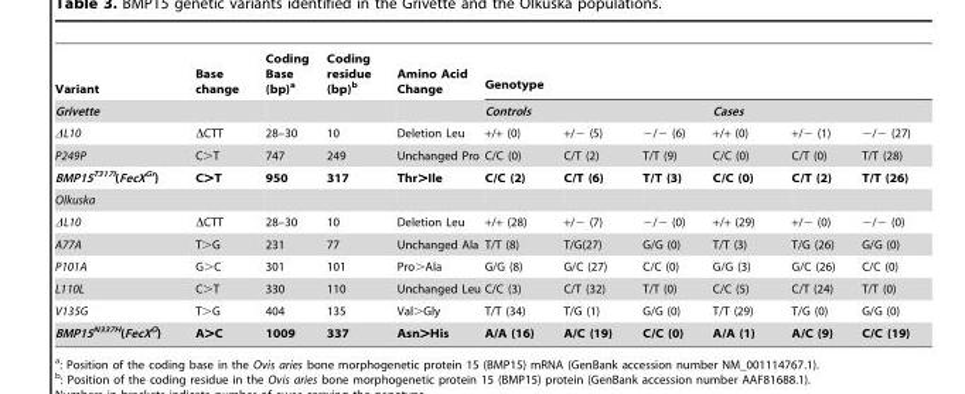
<table><thead><tr><td rowspan="3">Variant Grivette ΔL10</td><td rowspan="3">Base change ΔCTT</td><td rowspan="3">Coding Base (bp)<sup>a</sup> 28–30</td><td rowspan="3">Coding residue (bp)<sup>b</sup> 10</td><td rowspan="3">Amino Acid Change Deletion Leu</td><td colspan="6">Genotype</td></tr><tr><td colspan="3">Controls</td><td colspan="3">Cases</td></tr><tr><td>+/+ (0)</td><td>+/− (5)</td><td>−/− (6)</td><td>+/+ (0)</td><td>+/− (1)</td><td>−/− (27)</td></tr></thead><tbody><tr><td>P249P</td><td>C&gt;T</td><td>747</td><td>249</td><td>Unchanged Pro</td><td>C/C (0)</td><td>C/T (2)</td><td>T/T (9)</td><td>C/C (0)</td><td>C/T (0)</td><td>T/T (28)</td></tr><tr><td>BMP15<sup>T317I</sup>(FecX<sup>Gr</sup>)</td><td>C&gt;T</td><td>950</td><td>317</td><td>Thr&gt;Ile</td><td>C/C (2)</td><td>C/T (6)</td><td>T/T (3)</td><td>C/C (0)</td><td>C/T (2)</td><td>T/T (26)</td></tr><tr><td colspan="11">Olkuska</td></tr><tr><td>ΔL10</td><td>ΔCTT</td><td>28–30</td><td>10</td><td>Deletion Leu</td><td>+/+ (28)</td><td>+/− (7)</td><td>−/− (0)</td><td>+/+ (29)</td><td>+/− (0)</td><td>−/− (0)</td></tr><tr><td>A77A</td><td>T&gt;G</td><td>231</td><td>77</td><td>Unchanged Ala</td><td>T/T (8)</td><td>T/G(27)</td><td>G/G (0)</td><td>T/T (3)</td><td>T/G (26)</td><td>G/G (0)</td></tr><tr><td>P101A</td><td>G&gt;C</td><td>301</td><td>101</td><td>Pro&gt;Ala</td><td>G/G (8)</td><td>G/C (27)</td><td>C/C (0)</td><td>G/G (3)</td><td>G/C (26)</td><td>C/C (0)</td></tr><tr><td>L110L</td><td>C&gt;T</td><td>330</td><td>110</td><td>Unchanged Leu</td><td>C/C (3)</td><td>C/T (32)</td><td>T/T (0)</td><td>C/C (5)</td><td>C/T (24)</td><td>T/T (0)</td></tr><tr><td>V135G</td><td>T&gt;G</td><td>404</td><td>135</td><td>Val&gt;Gly</td><td>T/T (34)</td><td>T/G (1)</td><td>G/G (0)</td><td>T/T (29)</td><td>T/G (0)</td><td>G/G (0)</td></tr><tr><td>BMP15<sup>N337H</sup>(FecX<sup>O</sup>)</td><td>A&gt;C</td><td>1009</td><td>337</td><td>Asn&gt;His</td><td>A/A (16)</td><td>A/C (19)</td><td>C/C (0)</td><td>A/A (1)</td><td>A/C (9)</td><td>C/C (19)</td></tr></tbody></table>